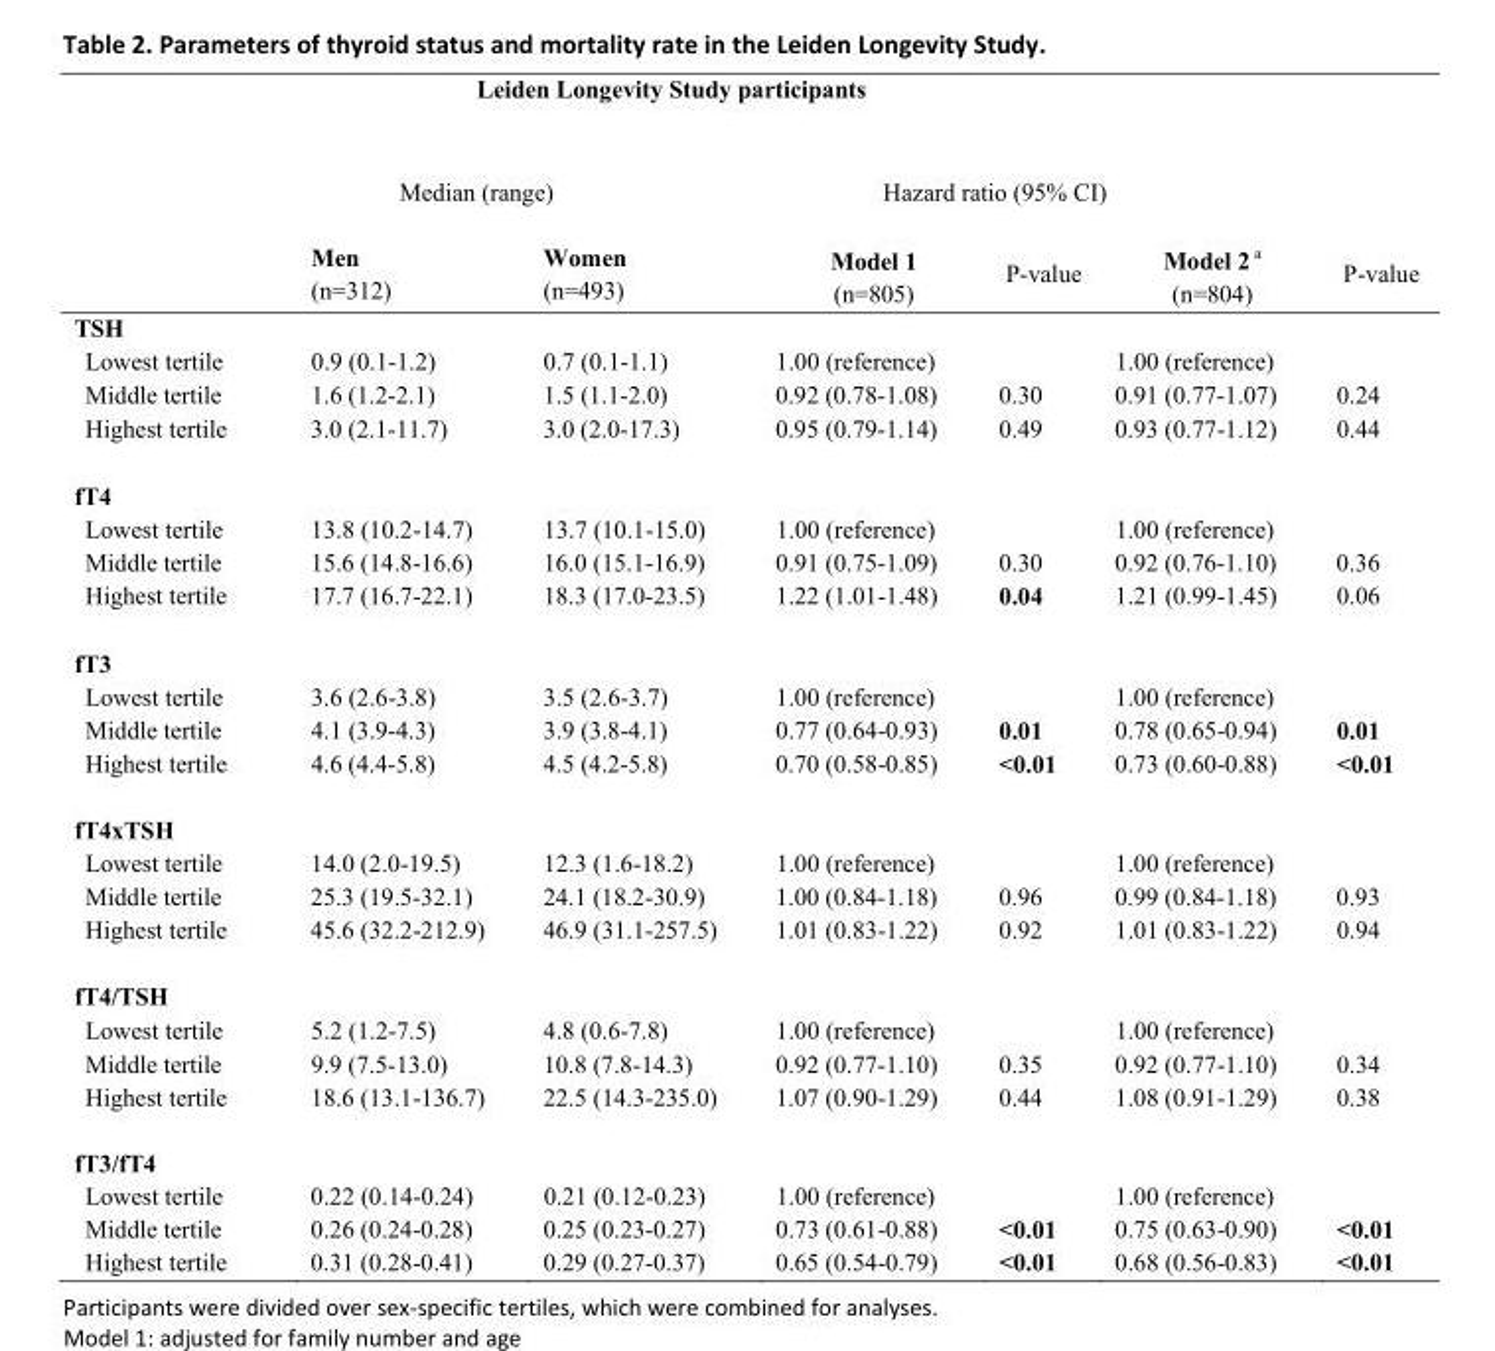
<table><thead><tr><td colspan="7">Leiden Longevity Study participants</td></tr><tr><td rowspan="2"></td><td colspan="2">Median (range)</td><td colspan="4">Hazard ratio (95% CI)</td></tr><tr><td>Men (n=312)</td><td>Women (n=493)</td><td>Model 1 (n=805)</td><td>P-value</td><td>Model 2 <sup>a</sup> (n=804)</td><td>P-value</td></tr></thead><tbody><tr><td colspan="7">TSH</td></tr><tr><td>Lowest tertile</td><td>0.9 (0.1-1.2)</td><td>0.7 (0.1-1.1)</td><td>1.00 (reference)</td><td></td><td>1.00 (reference)</td><td></td></tr><tr><td>Middle tertile</td><td>1.6 (1.2-2.1)</td><td>1.5 (1.1-2.0)</td><td>0.92 (0.78-1.08)</td><td>0.30</td><td>0.91 (0.77-1.07)</td><td>0.24</td></tr><tr><td>Highest tertile</td><td>3.0 (2.1-11.7)</td><td>3.0 (2.0-17.3)</td><td>0.95 (0.79-1.14)</td><td>0.49</td><td>0.93 (0.77-1.12)</td><td>0.44</td></tr><tr><td colspan="7">fT4</td></tr><tr><td>Lowest tertile</td><td>13.8 (10.2-14.7)</td><td>13.7 (10.1-15.0)</td><td>1.00 (reference)</td><td></td><td>1.00 (reference)</td><td></td></tr><tr><td>Middle tertile</td><td>15.6 (14.8-16.6)</td><td>16.0 (15.1-16.9)</td><td>0.91 (0.75-1.09)</td><td>0.30</td><td>0.92 (0.76-1.10)</td><td>0.36</td></tr><tr><td>Highest tertile</td><td>17.7 (16.7-22.1)</td><td>18.3 (17.0-23.5)</td><td>1.22 (1.01-1.48)</td><td>0.04</td><td>1.21 (0.99-1.45)</td><td>0.06</td></tr><tr><td colspan="7">fT3</td></tr><tr><td>Lowest tertile</td><td>3.6 (2.6-3.8)</td><td>3.5 (2.6-3.7)</td><td>1.00 (reference)</td><td></td><td>1.00 (reference)</td><td></td></tr><tr><td>Middle tertile</td><td>4.1 (3.9-4.3)</td><td>3.9 (3.8-4.1)</td><td>0.77 (0.64-0.93)</td><td>0.01</td><td>0.78 (0.65-0.94)</td><td>0.01</td></tr><tr><td>Highest tertile</td><td>4.6 (4.4-5.8)</td><td>4.5 (4.2-5.8)</td><td>0.70 (0.58-0.85)</td><td>&lt;0.01</td><td>0.73 (0.60-0.88)</td><td>&lt;0.01</td></tr><tr><td colspan="7">fT4xTSH</td></tr><tr><td>Lowest tertile</td><td>14.0 (2.0-19.5)</td><td>12.3 (1.6-18.2)</td><td>1.00 (reference)</td><td></td><td>1.00 (reference)</td><td></td></tr><tr><td>Middle tertile</td><td>25.3 (19.5-32.1)</td><td>24.1 (18.2-30.9)</td><td>1.00 (0.84-1.18)</td><td>0.96</td><td>0.99 (0.84-1.18)</td><td>0.93</td></tr><tr><td>Highest tertile</td><td>45.6 (32.2-212.9)</td><td>46.9 (31.1-257.5)</td><td>1.01 (0.83-1.22)</td><td>0.92</td><td>1.01 (0.83-1.22)</td><td>0.94</td></tr><tr><td colspan="7">fT4/TSH</td></tr><tr><td>Lowest tertile</td><td>5.2 (1.2-7.5)</td><td>4.8 (0.6-7.8)</td><td>1.00 (reference)</td><td></td><td>1.00 (reference)</td><td></td></tr><tr><td>Middle tertile</td><td>9.9 (7.5-13.0)</td><td>10.8 (7.8-14.3)</td><td>0.92 (0.77-1.10)</td><td>0.35</td><td>0.92 (0.77-1.10)</td><td>0.34</td></tr><tr><td>Highest tertile</td><td>18.6 (13.1-136.7)</td><td>22.5 (14.3-235.0)</td><td>1.07 (0.90-1.29)</td><td>0.44</td><td>1.08 (0.91-1.29)</td><td>0.38</td></tr><tr><td colspan="7">fT3/fT4</td></tr><tr><td>Lowest tertile</td><td>0.22 (0.14-0.24)</td><td>0.21 (0.12-0.23)</td><td>1.00 (reference)</td><td></td><td>1.00 (reference)</td><td></td></tr><tr><td>Middle tertile</td><td>0.26 (0.24-0.28)</td><td>0.25 (0.23-0.27)</td><td>0.73 (0.61-0.88)</td><td>&lt;0.01</td><td>0.75 (0.63-0.90)</td><td>&lt;0.01</td></tr><tr><td>Highest tertile</td><td>0.31 (0.28-0.41)</td><td>0.29 (0.27-0.37)</td><td>0.65 (0.54-0.79)</td><td>&lt;0.01</td><td>0.68 (0.56-0.83)</td><td>&lt;0.01</td></tr></tbody></table>